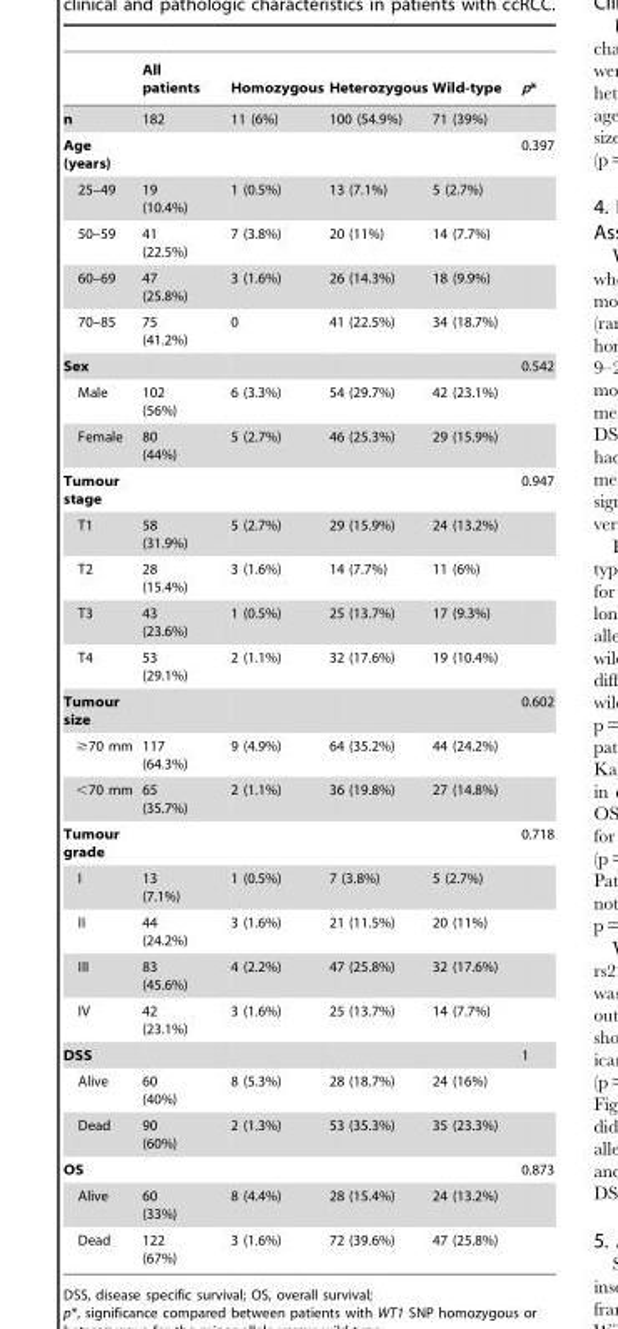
<table><thead><tr><td></td><td>All patients</td><td>Homozygous</td><td>Heterozygous</td><td>Wild-type</td><td>p*</td></tr></thead><tbody><tr><td>n</td><td>182</td><td>11 (6%)</td><td>100 (54.9%)</td><td>71 (39%)</td><td></td></tr><tr><td>Age (years)</td><td></td><td></td><td></td><td></td><td>0.397</td></tr><tr><td>25–49</td><td>19 (10.4%)</td><td>1 (0.5%)</td><td>13 (7.1%)</td><td>5 (2.7%)</td><td></td></tr><tr><td>50–59</td><td>41 (22.5%)</td><td>7 (3.8%)</td><td>20 (11%)</td><td>14 (7.7%)</td><td></td></tr><tr><td>60–69</td><td>47 (25.8%)</td><td>3 (1.6%)</td><td>26 (14.3%)</td><td>18 (9.9%)</td><td></td></tr><tr><td>70–85</td><td>75 (41.2%)</td><td>0</td><td>41 (22.5%)</td><td>34 (18.7%)</td><td></td></tr><tr><td>Sex</td><td></td><td></td><td></td><td></td><td>0.542</td></tr><tr><td>Male</td><td>102 (56%)</td><td>6 (3.3%)</td><td>54 (29.7%)</td><td>42 (23.1%)</td><td></td></tr><tr><td>Female</td><td>80 (44%)</td><td>5 (2.7%)</td><td>46 (25.3%)</td><td>29 (15.9%)</td><td></td></tr><tr><td>Tumour stage</td><td></td><td></td><td></td><td></td><td>0.947</td></tr><tr><td>T1</td><td>58 (31.9%)</td><td>5 (2.7%)</td><td>29 (15.9%)</td><td>24 (13.2%)</td><td></td></tr><tr><td>T2</td><td>28 (15.4%)</td><td>3 (1.6%)</td><td>14 (7.7%)</td><td>11 (6%)</td><td></td></tr><tr><td>T3</td><td>43 (23.6%)</td><td>1 (0.5%)</td><td>25 (13.7%)</td><td>17 (9.3%)</td><td></td></tr><tr><td>T4</td><td>53 (29.1%)</td><td>2 (1.1%)</td><td>32 (17.6%)</td><td>19 (10.4%)</td><td></td></tr><tr><td>Tumour size</td><td></td><td></td><td></td><td></td><td>0.602</td></tr><tr><td>≥70 mm</td><td>117 (64.3%)</td><td>9 (4.9%)</td><td>64 (35.2%)</td><td>44 (24.2%)</td><td></td></tr><tr><td>&lt;70 mm</td><td>65 (35.7%)</td><td>2 (1.1%)</td><td>36 (19.8%)</td><td>27 (14.8%)</td><td></td></tr><tr><td>Tumour grade</td><td></td><td></td><td></td><td></td><td>0.718</td></tr><tr><td>I</td><td>13 (7.1%)</td><td>1 (0.5%)</td><td>7 (3.8%)</td><td>5 (2.7%)</td><td></td></tr><tr><td>II</td><td>44 (24.2%)</td><td>3 (1.6%)</td><td>21 (11.5%)</td><td>20 (11%)</td><td></td></tr><tr><td>III</td><td>83 (45.6%)</td><td>4 (2.2%)</td><td>47 (25.8%)</td><td>32 (17.6%)</td><td></td></tr><tr><td>IV</td><td>42 (23.1%)</td><td>3 (1.6%)</td><td>25 (13.7%)</td><td>14 (7.7%)</td><td></td></tr><tr><td>DSS</td><td></td><td></td><td></td><td></td><td>1</td></tr><tr><td>Alive</td><td>60 (40%)</td><td>8 (5.3%)</td><td>28 (18.7%)</td><td>24 (16%)</td><td></td></tr><tr><td>Dead</td><td>90 (60%)</td><td>2 (1.3%)</td><td>53 (35.3%)</td><td>35 (23.3%)</td><td></td></tr><tr><td>OS</td><td></td><td></td><td></td><td></td><td>0.873</td></tr><tr><td>Alive</td><td>60 (33%)</td><td>8 (4.4%)</td><td>28 (15.4%)</td><td>24 (13.2%)</td><td></td></tr><tr><td>Dead</td><td>122 (67%)</td><td>3 (1.6%)</td><td>72 (39.6%)</td><td>47 (25.8%)</td><td></td></tr></tbody></table>